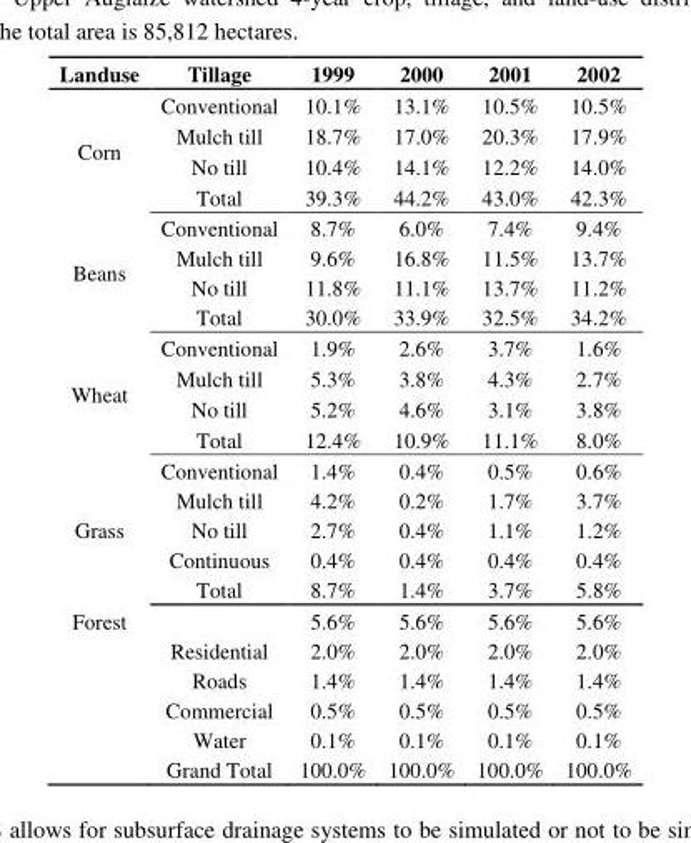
<table><thead><tr><td>Landuse</td><td>Tillage</td><td>1999</td><td>2000</td><td>2001</td><td>2002</td></tr></thead><tbody><tr><td rowspan="4">Corn</td><td>Conventional</td><td>10.1%</td><td>13.1%</td><td>10.5%</td><td>10.5%</td></tr><tr><td>Mulch till</td><td>18.7%</td><td>17.0%</td><td>20.3%</td><td>17.9%</td></tr><tr><td>No till</td><td>10.4%</td><td>14.1%</td><td>12.2%</td><td>14.0%</td></tr><tr><td>Total</td><td>39.3%</td><td>44.2%</td><td>43.0%</td><td>42.3%</td></tr><tr><td rowspan="4">Beans</td><td>Conventional</td><td>8.7%</td><td>6.0%</td><td>7.4%</td><td>9.4%</td></tr><tr><td>Mulch till</td><td>9.6%</td><td>16.8%</td><td>11.5%</td><td>13.7%</td></tr><tr><td>No till</td><td>11.8%</td><td>11.1%</td><td>13.7%</td><td>11.2%</td></tr><tr><td>Total</td><td>30.0%</td><td>33.9%</td><td>32.5%</td><td>34.2%</td></tr><tr><td rowspan="4">Wheat</td><td>Conventional</td><td>1.9%</td><td>2.6%</td><td>3.7%</td><td>1.6%</td></tr><tr><td>Mulch till</td><td>5.3%</td><td>3.8%</td><td>4.3%</td><td>2.7%</td></tr><tr><td>No till</td><td>5.2%</td><td>4.6%</td><td>3.1%</td><td>3.8%</td></tr><tr><td>Total</td><td>12.4%</td><td>10.9%</td><td>11.1%</td><td>8.0%</td></tr><tr><td rowspan="5">Grass</td><td>Conventional</td><td>1.4%</td><td>0.4%</td><td>0.5%</td><td>0.6%</td></tr><tr><td>Mulch till</td><td>4.2%</td><td>0.2%</td><td>1.7%</td><td>3.7%</td></tr><tr><td>No till</td><td>2.7%</td><td>0.4%</td><td>1.1%</td><td>1.2%</td></tr><tr><td>Continuous</td><td>0.4%</td><td>0.4%</td><td>0.4%</td><td>0.4%</td></tr><tr><td>Total</td><td>8.7%</td><td>1.4%</td><td>3.7%</td><td>5.8%</td></tr><tr><td rowspan="6">Forest</td><td></td><td>5.6%</td><td>5.6%</td><td>5.6%</td><td>5.6%</td></tr><tr><td>Residential</td><td>2.0%</td><td>2.0%</td><td>2.0%</td><td>2.0%</td></tr><tr><td>Roads</td><td>1.4%</td><td>1.4%</td><td>1.4%</td><td>1.4%</td></tr><tr><td>Commercial</td><td>0.5%</td><td>0.5%</td><td>0.5%</td><td>0.5%</td></tr><tr><td>Water</td><td>0.1%</td><td>0.1%</td><td>0.1%</td><td>0.1%</td></tr><tr><td>Grand Total</td><td>100.0%</td><td>100.0%</td><td>100.0%</td><td>100.0%</td></tr></tbody></table>